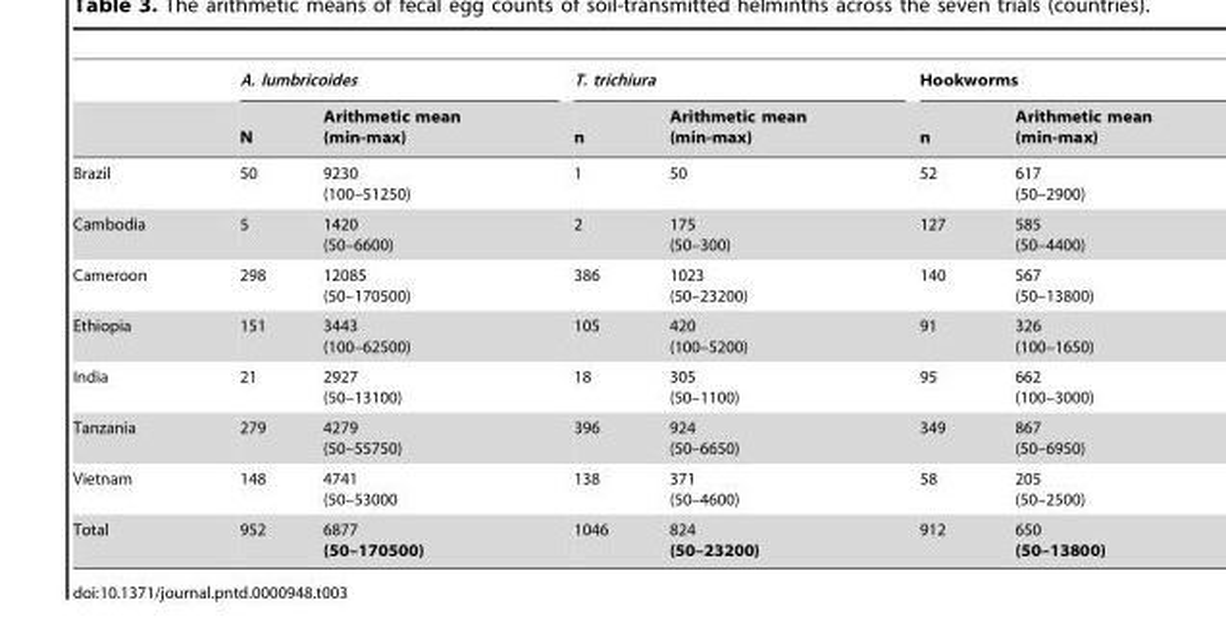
<table><thead><tr><td rowspan="2"></td><td colspan="2">A. lumbricoides</td><td colspan="2">T. trichiura</td><td colspan="2">Hookworms</td></tr><tr><td>N</td><td>Arithmetic mean (min-max)</td><td>n</td><td>Arithmetic mean (min-max)</td><td>n</td><td>Arithmetic mean (min-max)</td></tr></thead><tbody><tr><td>Brazil</td><td>50</td><td>9230 (100–51250)</td><td>1</td><td>50</td><td>52</td><td>617 (50–2900)</td></tr><tr><td>Cambodia</td><td>5</td><td>1420 (50–6600)</td><td>2</td><td>175 (50–300)</td><td>127</td><td>585 (50–4400)</td></tr><tr><td>Cameroon</td><td>298</td><td>12085 (50–170500)</td><td>386</td><td>1023 (50–23200)</td><td>140</td><td>567 (50–13800)</td></tr><tr><td>Ethiopia</td><td>151</td><td>3443 (100–62500)</td><td>105</td><td>420 (100–5200)</td><td>91</td><td>326 (100–1650)</td></tr><tr><td>India</td><td>21</td><td>2927 (50–13100)</td><td>18</td><td>305 (50–1100)</td><td>95</td><td>662 (100–3000)</td></tr><tr><td>Tanzania</td><td>279</td><td>4279 (50–55750)</td><td>396</td><td>924 (50–6650)</td><td>349</td><td>867 (50–6950)</td></tr><tr><td>Vietnam</td><td>148</td><td>4741 (50–53000</td><td>138</td><td>371 (50–4600)</td><td>58</td><td>205 (50–2500)</td></tr><tr><td>Total</td><td>952</td><td>6877 (50–170500)</td><td>1046</td><td>824 (50–23200)</td><td>912</td><td>650 (50–13800)</td></tr></tbody></table>